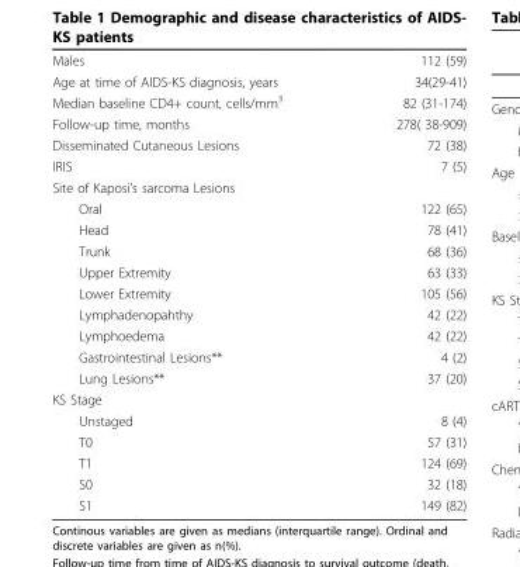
<table><tbody><tr><td>Males</td><td>112 (59)</td></tr><tr><td>Age at time of AIDS-KS diagnosis, years</td><td>34(29-41)</td></tr><tr><td>Median baseline CD4+ count, cells/mm<sup>3</sup></td><td>82 (31-174)</td></tr><tr><td>Follow-up time, months</td><td>278( 38-909)</td></tr><tr><td>Disseminated Cutaneous Lesions</td><td>72 (38)</td></tr><tr><td>IRIS</td><td>7 (5)</td></tr><tr><td colspan="2">Site of Kaposi’s sarcoma Lesions</td></tr><tr><td>Oral</td><td>122 (65)</td></tr><tr><td>Head</td><td>78 (41)</td></tr><tr><td>Trunk</td><td>68 (36)</td></tr><tr><td>Upper Extremity</td><td>63 (33)</td></tr><tr><td>Lower Extremity</td><td>105 (56)</td></tr><tr><td>Lymphadenopahthy</td><td>42 (22)</td></tr><tr><td>Lymphoedema</td><td>42 (22)</td></tr><tr><td>Gastrointestinal Lesions**</td><td>4 (2)</td></tr><tr><td>Lung Lesions**</td><td>37 (20)</td></tr><tr><td colspan="2">KS Stage</td></tr><tr><td>Unstaged</td><td>8 (4)</td></tr><tr><td>T0</td><td>57 (31)</td></tr><tr><td>T1</td><td>124 (69)</td></tr><tr><td>S0</td><td>32 (18)</td></tr><tr><td>S1</td><td>149 (82)</td></tr></tbody></table>